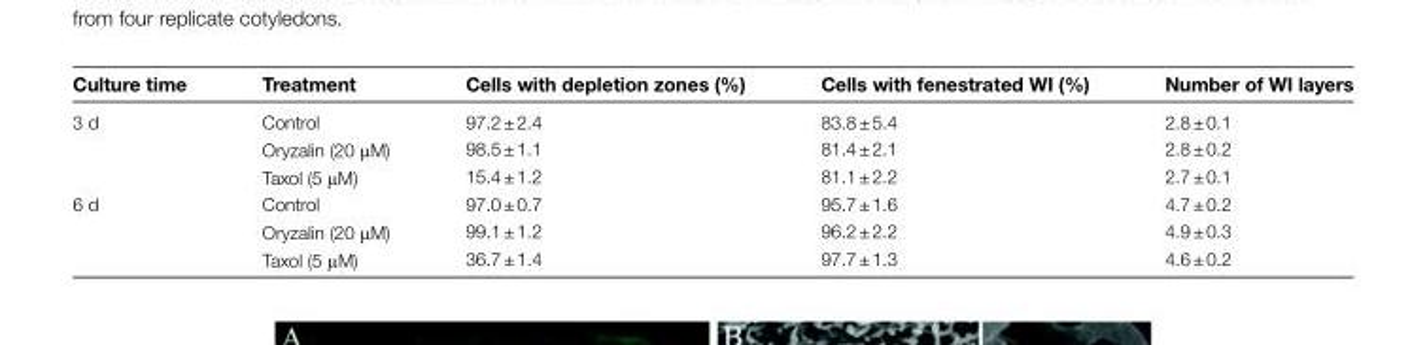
<table><thead><tr><td>Culture time</td><td>Treatment</td><td>Cells with depletion zones (%)</td><td>Cells with fenestrated WI (%)</td><td>Number of WI layers</td></tr></thead><tbody><tr><td rowspan="3">3 d</td><td>Control</td><td>97.2 ± 2.4</td><td>83.8 ± 5.4</td><td>2.8 ± 0.1</td></tr><tr><td>Oryzalin (20 μM)</td><td>98.5 ± 1.1</td><td>81.4 ± 2.1</td><td>2.8 ± 0.2</td></tr><tr><td>Taxol (5 μM)</td><td>15.4 ± 1.2</td><td>81.1 ± 2.2</td><td>2.7 ± 0.1</td></tr><tr><td rowspan="3">6 d</td><td>Control</td><td>97.0 ± 0.7</td><td>95.7 ± 1.6</td><td>4.7 ± 0.2</td></tr><tr><td>Oryzalin (20 μM)</td><td>99.1 ± 1.2</td><td>96.2 ± 2.2</td><td>4.9 ± 0.3</td></tr><tr><td>Taxol (5 μM)</td><td>36.7 ± 1.4</td><td>97.7 ± 1.3</td><td>4.6 ± 0.2</td></tr></tbody></table>